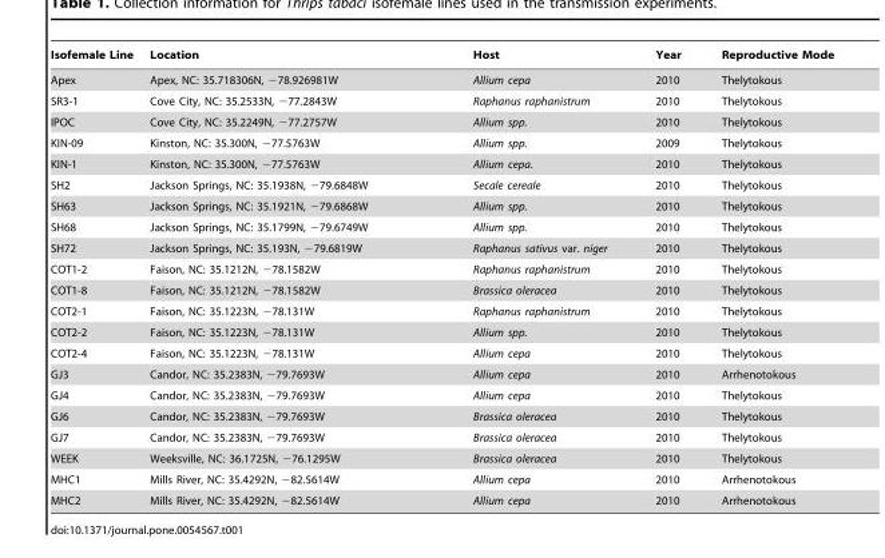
<table><thead><tr><td>Isofemale Line</td><td>Location</td><td>Host</td><td>Year</td><td>Reproductive Mode</td></tr></thead><tbody><tr><td>Apex</td><td>Apex, NC: 35.718306N, −78.926981W</td><td>Allium cepa</td><td>2010</td><td>Thelytokous</td></tr><tr><td>SR3-1</td><td>Cove City, NC: 35.2533N, −77.2843W</td><td>Raphanus raphanistrum</td><td>2010</td><td>Thelytokous</td></tr><tr><td>IPOC</td><td>Cove City, NC: 35.2249N, −77.2757W</td><td>Allium spp.</td><td>2010</td><td>Thelytokous</td></tr><tr><td>KIN-09</td><td>Kinston, NC: 35.300N, −77.5763W</td><td>Allium spp.</td><td>2009</td><td>Thelytokous</td></tr><tr><td>KIN-1</td><td>Kinston, NC: 35.300N, −77.5763W</td><td>Allium cepa.</td><td>2010</td><td>Thelytokous</td></tr><tr><td>SH2</td><td>Jackson Springs, NC: 35.1938N, −79.6848W</td><td>Secale cereale</td><td>2010</td><td>Thelytokous</td></tr><tr><td>SH63</td><td>Jackson Springs, NC: 35.1921N, −79.6868W</td><td>Allium spp.</td><td>2010</td><td>Thelytokous</td></tr><tr><td>SH68</td><td>Jackson Springs, NC: 35.1799N, −79.6749W</td><td>Allium spp.</td><td>2010</td><td>Thelytokous</td></tr><tr><td>SH72</td><td>Jackson Springs, NC: 35.193N, −79.6819W</td><td>Raphanus sativus var. niger</td><td>2010</td><td>Thelytokous</td></tr><tr><td>COT1-2</td><td>Faison, NC: 35.1212N, −78.1582W</td><td>Raphanus raphanistrum</td><td>2010</td><td>Thelytokous</td></tr><tr><td>COT1-8</td><td>Faison, NC: 35.1212N, −78.1582W</td><td>Brassica oleracea</td><td>2010</td><td>Thelytokous</td></tr><tr><td>COT2-1</td><td>Faison, NC: 35.1223N, −78.131W</td><td>Raphanus raphanistrum</td><td>2010</td><td>Thelytokous</td></tr><tr><td>COT2-2</td><td>Faison, NC: 35.1223N, −78.131W</td><td>Allium spp.</td><td>2010</td><td>Thelytokous</td></tr><tr><td>COT2-4</td><td>Faison, NC: 35.1223N, −78.131W</td><td>Allium cepa</td><td>2010</td><td>Thelytokous</td></tr><tr><td>GJ3</td><td>Candor, NC: 35.2383N, −79.7693W</td><td>Allium cepa</td><td>2010</td><td>Arrhenotokous</td></tr><tr><td>GJ4</td><td>Candor, NC: 35.2383N, −79.7693W</td><td>Allium cepa</td><td>2010</td><td>Thelytokous</td></tr><tr><td>GJ6</td><td>Candor, NC: 35.2383N, −79.7693W</td><td>Brassica oleracea</td><td>2010</td><td>Thelytokous</td></tr><tr><td>GJ7</td><td>Candor, NC: 35.2383N, −79.7693W</td><td>Brassica oleracea</td><td>2010</td><td>Thelytokous</td></tr><tr><td>WEEK</td><td>Weeksville, NC: 36.1725N, −76.1295W</td><td>Brassica oleracea</td><td>2010</td><td>Thelytokous</td></tr><tr><td>MHC1</td><td>Mills River, NC: 35.4292N, −82.5614W</td><td>Allium cepa</td><td>2010</td><td>Arrhenotokous</td></tr><tr><td>MHC2</td><td>Mills River, NC: 35.4292N, −82.5614W</td><td>Allium cepa</td><td>2010</td><td>Arrhenotokous</td></tr></tbody></table>